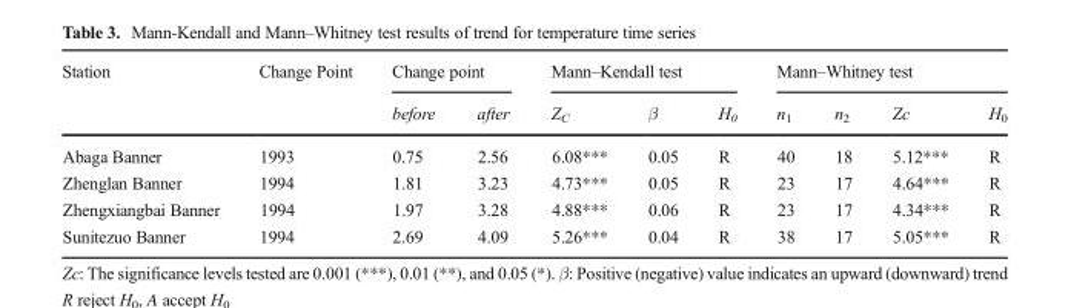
<table><thead><tr><td rowspan="2">Station</td><td rowspan="2">Change Point</td><td colspan="2">Change point</td><td colspan="3">Mann–Kendall test</td><td colspan="4">Mann–Whitney test</td></tr><tr><td>before</td><td>after</td><td>Z<sub>C</sub></td><td>β</td><td>H<sub>0</sub></td><td>n<sub>1</sub></td><td>n<sub>2</sub></td><td>Zc</td><td>H<sub>0</sub></td></tr></thead><tbody><tr><td>Abaga Banner</td><td>1993</td><td>0.75</td><td>2.56</td><td>6.08***</td><td>0.05</td><td>R</td><td>40</td><td>18</td><td>5.12***</td><td>R</td></tr><tr><td>Zhenglan Banner</td><td>1994</td><td>1.81</td><td>3.23</td><td>4.73***</td><td>0.05</td><td>R</td><td>23</td><td>17</td><td>4.64***</td><td>R</td></tr><tr><td>Zhengxiangbai Banner</td><td>1994</td><td>1.97</td><td>3.28</td><td>4.88***</td><td>0.06</td><td>R</td><td>23</td><td>17</td><td>4.34***</td><td>R</td></tr><tr><td>Sunitezuo Banner</td><td>1994</td><td>2.69</td><td>4.09</td><td>5.26***</td><td>0.04</td><td>R</td><td>38</td><td>17</td><td>5.05***</td><td>R</td></tr></tbody></table>